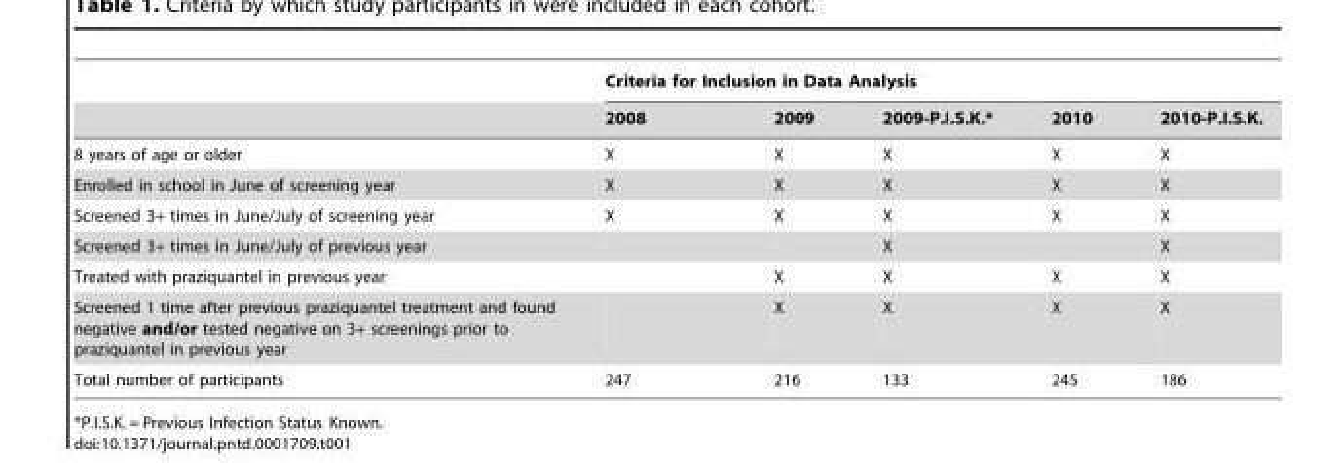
<table><thead><tr><td rowspan="2"></td><td colspan="5">Criteria for Inclusion in Data Analysis</td></tr><tr><td>2008</td><td>2009</td><td>2009-P.I.S.K.*</td><td>2010</td><td>2010-P.I.S.K.</td></tr></thead><tbody><tr><td>8 years of age or older</td><td>X</td><td>X</td><td>X</td><td>X</td><td>X</td></tr><tr><td>Enrolled in school in June of screening year</td><td>X</td><td>X</td><td>X</td><td>X</td><td>X</td></tr><tr><td>Screened 3+ times in June/July of screening year</td><td>X</td><td>X</td><td>X</td><td>X</td><td>X</td></tr><tr><td>Screened 3+ times in June/July of previous year</td><td></td><td></td><td>X</td><td></td><td>X</td></tr><tr><td>Treated with praziquantel in previous year</td><td></td><td>X</td><td>X</td><td>X</td><td>X</td></tr><tr><td>Screened 1 time after previous praziquantel treatment and found negative and/or tested negative on 3+ screenings prior to praziquantel in previous year</td><td></td><td>X</td><td>X</td><td>X</td><td>X</td></tr><tr><td>Total number of participants</td><td>247</td><td>216</td><td>133</td><td>245</td><td>186</td></tr></tbody></table>